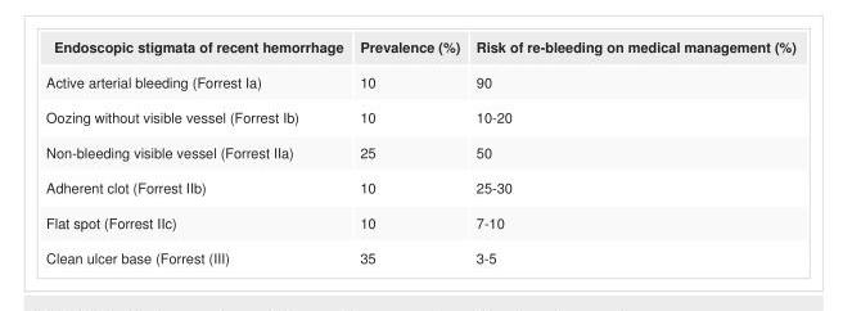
<table><tbody><tr><td>Endoscopic stigmata of recent hemorrhage</td><td>Prevalence (%)</td><td>Risk of re-bleeding on medical management (%)</td></tr><tr><td>Active arterial bleeding (Forrest Ia)</td><td>10</td><td>90</td></tr><tr><td>Oozing without visible vessel (Forrest Ib)</td><td>10</td><td>10-20</td></tr><tr><td>Non-bleeding visible vessel (Forrest IIa)</td><td>25</td><td>50</td></tr><tr><td>Adherent clot (Forrest IIb)</td><td>10</td><td>25-30</td></tr><tr><td>Flat spot (Forrest IIc)</td><td>10</td><td>7-10</td></tr><tr><td>Clean ulcer base (Forrest (III)</td><td>35</td><td>3-5</td></tr></tbody></table>